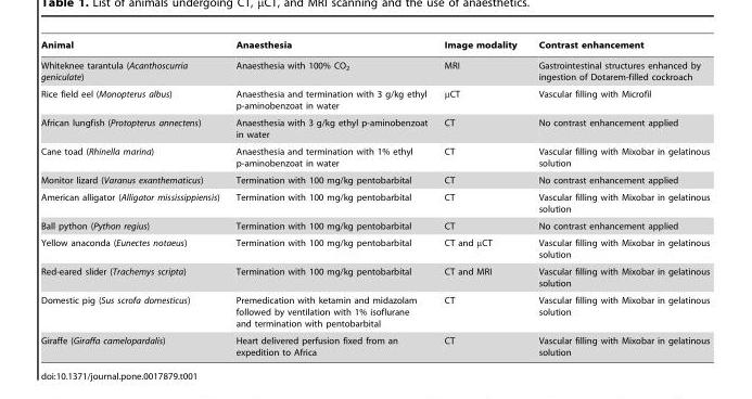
<table><thead><tr><td>Animal</td><td>Anaesthesia</td><td>Image modality</td><td>Contrast enhancement</td></tr></thead><tbody><tr><td>Whiteknee tarantula (Acanthoscurria geniculate)</td><td>Anaesthesia with 100% CO<sub>2</sub></td><td>MRI</td><td>Gastrointestinal structures enhanced by ingestion of Dotarem-filled cockroach</td></tr><tr><td>Rice field eel (Monopterus albus)</td><td>Anaesthesia and termination with 3 g/kg ethyl p-aminobenzoat in water</td><td>μCT</td><td>Vascular filling with Microfil</td></tr><tr><td>African lungfish (Protopterus annectens)</td><td>Anaesthesia with 3 g/kg ethyl p-aminobenzoat in water</td><td>CT</td><td>No contrast enhancement applied</td></tr><tr><td>Cane toad (Rhinella marina)</td><td>Anaesthesia and termination with 1% ethyl p-aminobenzoat in water</td><td>CT</td><td>Vascular filling with Mixobar in gelatinous solution</td></tr><tr><td>Monitor lizard (Varanus exanthematicus)</td><td>Termination with 100 mg/kg pentobarbital</td><td>CT</td><td>No contrast enhancement applied</td></tr><tr><td>American alligator (Alligator mississippiensis)</td><td>Termination with 100 mg/kg pentobarbital</td><td>CT</td><td>Vascular filling with Mixobar in gelatinous solution</td></tr><tr><td>Ball python (Python regius)</td><td>Termination with 100 mg/kg pentobarbital</td><td>CT</td><td>No contrast enhancement applied</td></tr><tr><td>Yellow anaconda (Eunectes notaeus)</td><td>Termination with 100 mg/kg pentobarbital</td><td>CT and μCT</td><td>Vascular filling with Mixobar in gelatinous solution</td></tr><tr><td>Red-eared slider (Trachemys scripta)</td><td>Termination with 100 mg/kg pentobarbital</td><td>CT and MRI</td><td>Vascular filling with Mixobar in gelatinous solution</td></tr><tr><td>Domestic pig (Sus scrofa domesticus)</td><td>Premedication with ketamin and midazolam followed by ventilation with 1% isoflurane and termination with pentobarbital</td><td>CT</td><td>Vascular filling with Mixobar in gelatinous solution</td></tr><tr><td>Giraffe (Giraffa camelopardalis)</td><td>Heart delivered perfusion fixed from an expedition to Africa</td><td>CT</td><td>Vascular filling with Mixobar in gelatinous solution</td></tr></tbody></table>